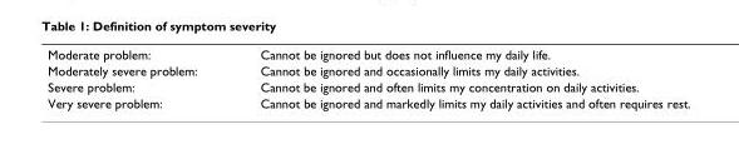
<table><tbody><tr><td>Moderate problem:</td><td>Cannot be ignored but does not influence my daily life.</td></tr><tr><td>Moderately severe problem:</td><td>Cannot be ignored and occasionally limits my daily activities.</td></tr><tr><td>Severe problem:</td><td>Cannot be ignored and often limits my concentration on daily activities.</td></tr><tr><td>Very severe problem:</td><td>Cannot be ignored and markedly limits my daily activities and often requires rest.</td></tr></tbody></table>